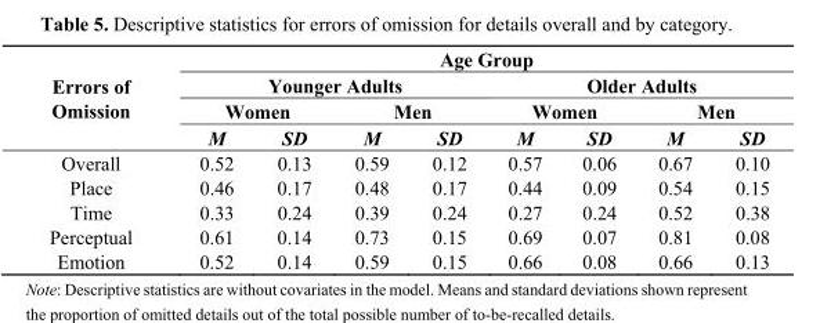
<table><thead><tr><td rowspan="4">Errors of Omission</td><td colspan="8">Age Group</td></tr><tr><td colspan="4">Younger Adults</td><td colspan="4">Older Adults</td></tr><tr><td colspan="2">Women</td><td colspan="2">Men</td><td colspan="2">Women</td><td colspan="2">Men</td></tr><tr><td>M</td><td>SD</td><td>M</td><td>SD</td><td>M</td><td>SD</td><td>M</td><td>SD</td></tr></thead><tbody><tr><td>Overall</td><td>0.52</td><td>0.13</td><td>0.59</td><td>0.12</td><td>0.57</td><td>0.06</td><td>0.67</td><td>0.10</td></tr><tr><td>Place</td><td>0.46</td><td>0.17</td><td>0.48</td><td>0.17</td><td>0.44</td><td>0.09</td><td>0.54</td><td>0.15</td></tr><tr><td>Time</td><td>0.33</td><td>0.24</td><td>0.39</td><td>0.24</td><td>0.27</td><td>0.24</td><td>0.52</td><td>0.38</td></tr><tr><td>Perceptual</td><td>0.61</td><td>0.14</td><td>0.73</td><td>0.15</td><td>0.69</td><td>0.07</td><td>0.81</td><td>0.08</td></tr><tr><td>Emotion</td><td>0.52</td><td>0.14</td><td>0.59</td><td>0.15</td><td>0.66</td><td>0.08</td><td>0.66</td><td>0.13</td></tr></tbody></table>